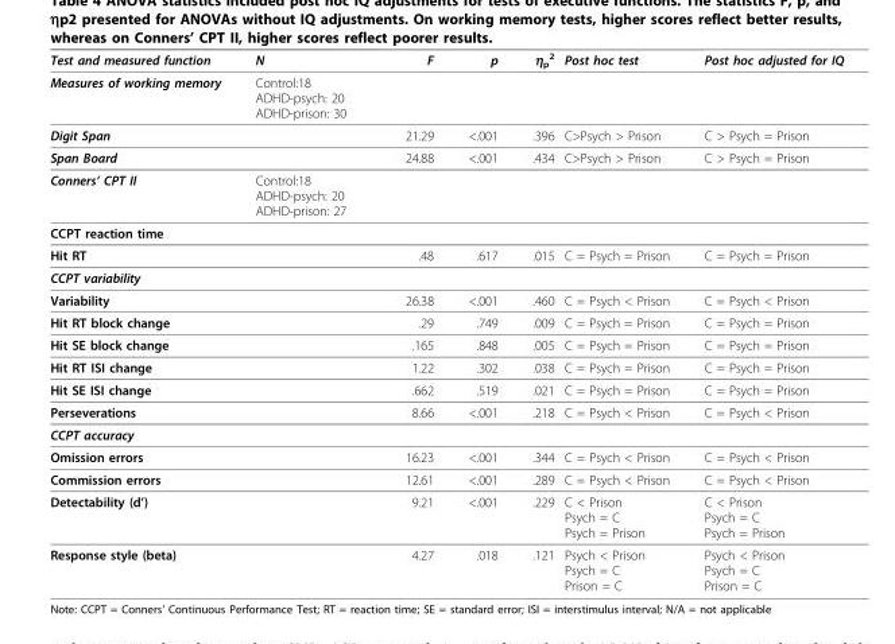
<table><thead><tr><td>Test and measured function</td><td>N</td><td>F</td><td>p</td><td>η<sub>p</sub> <sup>2</sup></td><td>Post hoc test</td><td>Post hoc adjusted for IQ</td></tr></thead><tbody><tr><td>Measures of working memory</td><td>Control:18 ADHD-psych: 20 ADHD-prison: 30</td><td></td><td></td><td></td><td></td><td></td></tr><tr><td>Digit Span</td><td></td><td>21.29</td><td>&lt;.001</td><td>.396</td><td>C&gt;Psych &gt; Prison</td><td>C &gt; Psych = Prison</td></tr><tr><td>Span Board</td><td></td><td>24.88</td><td>&lt;.001</td><td>.434</td><td>C&gt;Psych &gt; Prison</td><td>C &gt; Psych = Prison</td></tr><tr><td>Conners’ CPT II</td><td>Control:18 ADHD-psych: 20 ADHD-prison: 27</td><td></td><td></td><td></td><td></td><td></td></tr><tr><td colspan="7">CCPT reaction time</td></tr><tr><td>Hit RT</td><td></td><td>.48</td><td>.617</td><td>.015</td><td>C = Psych = Prison</td><td>C = Psych = Prison</td></tr><tr><td colspan="7">CCPT variability</td></tr><tr><td>Variability</td><td></td><td>26.38</td><td>&lt;.001</td><td>.460</td><td>C = Psych &lt; Prison</td><td>C = Psych &lt; Prison</td></tr><tr><td>Hit RT block change</td><td></td><td>.29</td><td>.749</td><td>.009</td><td>C = Psych = Prison</td><td>C = Psych = Prison</td></tr><tr><td>Hit SE block change</td><td></td><td>.165</td><td>.848</td><td>.005</td><td>C = Psych = Prison</td><td>C = Psych = Prison</td></tr><tr><td>Hit RT ISI change</td><td></td><td>1.22</td><td>.302</td><td>.038</td><td>C = Psych = Prison</td><td>C = Psych = Prison</td></tr><tr><td>Hit SE ISI change</td><td></td><td>.662</td><td>.519</td><td>.021</td><td>C = Psych = Prison</td><td>C = Psych = Prison</td></tr><tr><td>Perseverations</td><td></td><td>8.66</td><td>&lt;.001</td><td>.218</td><td>C = Psych &lt; Prison</td><td>C = Psych &lt; Prison</td></tr><tr><td colspan="7">CCPT accuracy</td></tr><tr><td>Omission errors</td><td></td><td>16.23</td><td>&lt;.001</td><td>.344</td><td>C = Psych &lt; Prison</td><td>C = Psych &lt; Prison</td></tr><tr><td>Commission errors</td><td></td><td>12.61</td><td>&lt;.001</td><td>.289</td><td>C = Psych &lt; Prison</td><td>C = Psych &lt; Prison</td></tr><tr><td>Detectability (d’)</td><td></td><td>9.21</td><td>&lt;.001</td><td>.229</td><td>C &lt; Prison Psych = C Psych = Prison</td><td>C &lt; Prison Psych = C Psych = Prison</td></tr><tr><td>Response style (beta)</td><td></td><td>4.27</td><td>.018</td><td>.121</td><td>Psych &lt; Prison Psych = C Prison = C</td><td>Psych &lt; Prison Psych = C Prison = C</td></tr></tbody></table>